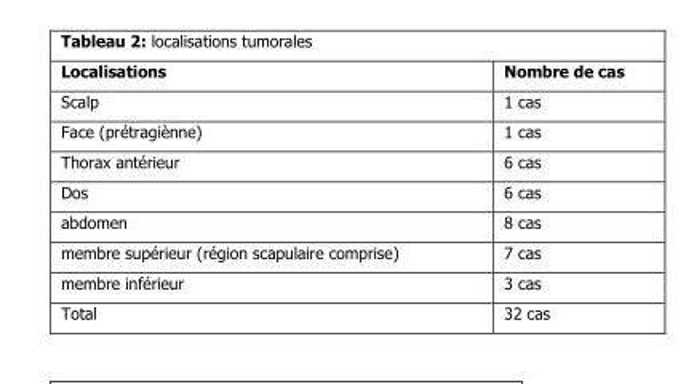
<table><thead><tr><td>Localisations</td><td>Nombre de cas</td></tr></thead><tbody><tr><td>Scalp</td><td>1 cas</td></tr><tr><td>Face (prétragiènne)</td><td>1 cas</td></tr><tr><td>Thorax antérieur</td><td>6 cas</td></tr><tr><td>Dos</td><td>6 cas</td></tr><tr><td>abdomen</td><td>8 cas</td></tr><tr><td>membre supérieur (région scapulaire comprise)</td><td>7 cas</td></tr><tr><td>membre inférieur</td><td>3 cas</td></tr><tr><td>Total</td><td>32 cas</td></tr></tbody></table>